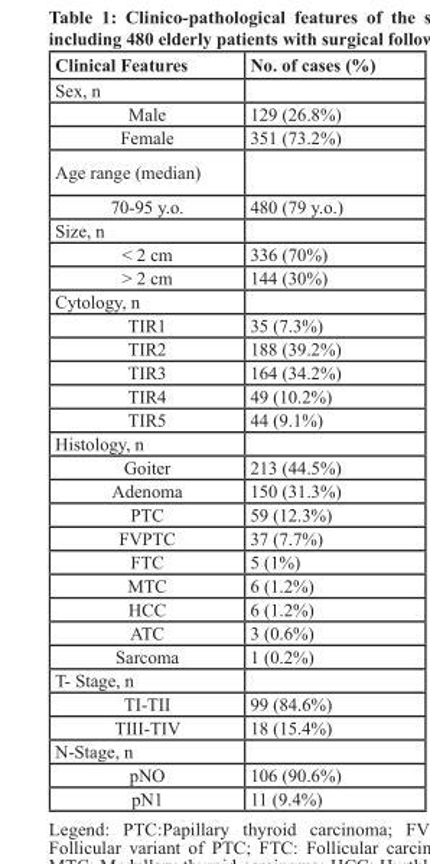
<table><thead><tr><td>Clinical Features</td><td>No. of cases (%)</td></tr></thead><tbody><tr><td colspan="2">Sex, n</td></tr><tr><td>Male</td><td>129 (26.8%)</td></tr><tr><td>Female</td><td>351 (73.2%)</td></tr><tr><td colspan="2">Age range (median)</td></tr><tr><td>70-95 y.o.</td><td>480 (79 y.o.)</td></tr><tr><td colspan="2">Size, n</td></tr><tr><td>&lt; 2 cm</td><td>336 (70%)</td></tr><tr><td>&gt; 2 cm</td><td>144 (30%)</td></tr><tr><td colspan="2">Cytology, n</td></tr><tr><td>TIR1</td><td>35 (7.3%)</td></tr><tr><td>TIR2</td><td>188 (39.2%)</td></tr><tr><td>TIR3</td><td>164 (34.2%)</td></tr><tr><td>TIR4</td><td>49 (10.2%)</td></tr><tr><td>TIR5</td><td>44 (9.1%)</td></tr><tr><td colspan="2">Histology, n</td></tr><tr><td>Goiter</td><td>213 (44.5%)</td></tr><tr><td>Adenoma</td><td>150 (31.3%)</td></tr><tr><td>PTC</td><td>59 (12.3%)</td></tr><tr><td>FVPTC</td><td>37 (7.7%)</td></tr><tr><td>FTC</td><td>5 (1%)</td></tr><tr><td>MTC</td><td>6 (1.2%)</td></tr><tr><td>HCC</td><td>6 (1.2%)</td></tr><tr><td>ATC</td><td>3 (0.6%)</td></tr><tr><td>Sarcoma</td><td>1 (0.2%)</td></tr><tr><td colspan="2">T- Stage, n</td></tr><tr><td>TI-TII</td><td>99 (84.6%)</td></tr><tr><td>TIII-TIV</td><td>18 (15.4%)</td></tr><tr><td colspan="2">N-Stage, n</td></tr><tr><td>pNO</td><td>106 (90.6%)</td></tr><tr><td>pN1</td><td>11 (9.4%)</td></tr></tbody></table>